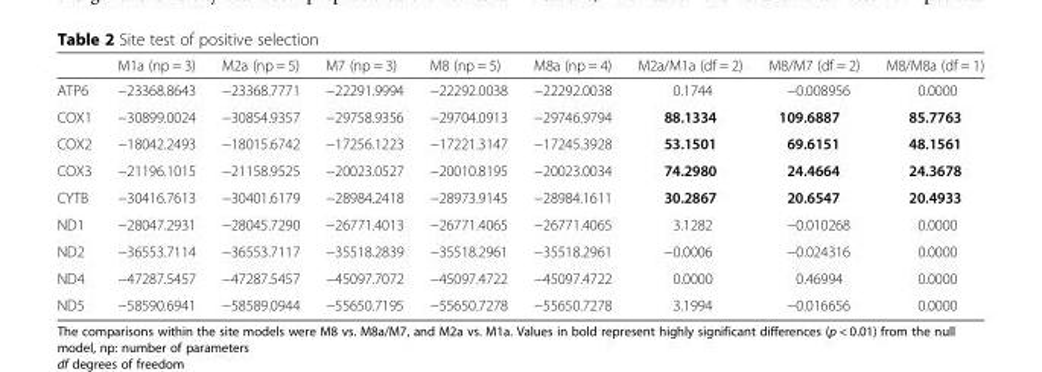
<table><thead><tr><td></td><td>M1a (np = 3)</td><td>M2a (np = 5)</td><td>M7 (np = 3)</td><td>M8 (np = 5)</td><td>M8a (np = 4)</td><td>M2a/M1a (df = 2)</td><td>M8/M7 (df = 2)</td><td>M8/M8a (df = 1)</td></tr></thead><tbody><tr><td>ATP6</td><td>−23368.8643</td><td>−23368.7771</td><td>−22291.9994</td><td>−22292.0038</td><td>−22292.0038</td><td>0.1744</td><td>−0.008956</td><td>0.0000</td></tr><tr><td>COX1</td><td>−30899.0024</td><td>−30854.9357</td><td>−29758.9356</td><td>−29704.0913</td><td>−29746.9794</td><td>88.1334</td><td>109.6887</td><td>85.7763</td></tr><tr><td>COX2</td><td>−18042.2493</td><td>−18015.6742</td><td>−17256.1223</td><td>−17221.3147</td><td>−17245.3928</td><td>53.1501</td><td>69.6151</td><td>48.1561</td></tr><tr><td>COX3</td><td>−21196.1015</td><td>−21158.9525</td><td>−20023.0527</td><td>−20010.8195</td><td>−20023.0034</td><td>74.2980</td><td>24.4664</td><td>24.3678</td></tr><tr><td>CYTB</td><td>−30416.7613</td><td>−30401.6179</td><td>−28984.2418</td><td>−28973.9145</td><td>−28984.1611</td><td>30.2867</td><td>20.6547</td><td>20.4933</td></tr><tr><td>ND1</td><td>−28047.2931</td><td>−28045.7290</td><td>−26771.4013</td><td>−26771.4065</td><td>−26771.4065</td><td>3.1282</td><td>−0.010268</td><td>0.0000</td></tr><tr><td>ND2</td><td>−36553.7114</td><td>−36553.7117</td><td>−35518.2839</td><td>−35518.2961</td><td>−35518.2961</td><td>−0.0006</td><td>−0.024316</td><td>0.0000</td></tr><tr><td>ND4</td><td>−47287.5457</td><td>−47287.5457</td><td>−45097.7072</td><td>−45097.4722</td><td>−45097.4722</td><td>0.0000</td><td>0.46994</td><td>0.0000</td></tr><tr><td>ND5</td><td>−58590.6941</td><td>−58589.0944</td><td>−55650.7195</td><td>−55650.7278</td><td>−55650.7278</td><td>3.1994</td><td>−0.016656</td><td>0.0000</td></tr></tbody></table>